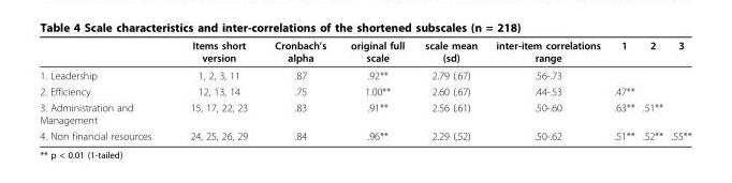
<table><thead><tr><td></td><td>Items short version</td><td>Cronbach’s alpha</td><td>original full scale</td><td>scale mean (sd)</td><td>inter-item correlations range</td><td>1</td><td>2</td><td>3</td></tr></thead><tbody><tr><td>1. Leadership</td><td>1, 2, 3, 11</td><td>.87</td><td>.92**</td><td>2.79 (.67)</td><td>.56-.73</td><td></td><td></td><td></td></tr><tr><td>2. Efficiency</td><td>12, 13, 14</td><td>.75</td><td>1.00**</td><td>2.60 (.67)</td><td>.44-.53</td><td>.47**</td><td></td><td></td></tr><tr><td>3. Administration and Management</td><td>15, 17, 22, 23</td><td>.83</td><td>.91**</td><td>2.56 (.61)</td><td>.50-.60</td><td>.63**</td><td>.51**</td><td></td></tr><tr><td>4. Non financial resources</td><td>24, 25, 26, 29</td><td>.84</td><td>.96**</td><td>2.29 (.52)</td><td>.50-.62</td><td>.51**</td><td>.52**</td><td>.55**</td></tr></tbody></table>